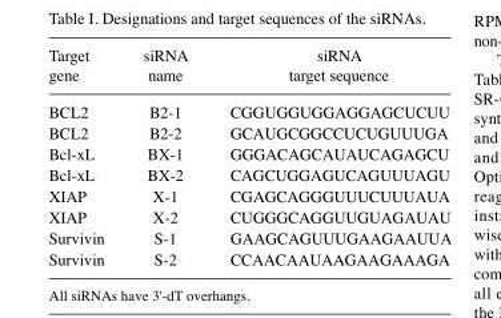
<table><thead><tr><td>Target gene</td><td>siRNA name</td><td>siRNA target sequence</td></tr></thead><tbody><tr><td>BCL2</td><td>B2-1</td><td>CGGUGGUGGAGGAGCUCUU</td></tr><tr><td>BCL2</td><td>B2-2</td><td>GCAUGCGGCCUCUGUUUGA</td></tr><tr><td>Bcl-xL</td><td>BX-1</td><td>GGGACAGCAUAUCAGAGCU</td></tr><tr><td>Bcl-xL</td><td>BX-2</td><td>CAGCUGGAGUCAGUUUAGU</td></tr><tr><td>XIAP</td><td>X-1</td><td>CGAGCAGGGUUUCUUUAUA</td></tr><tr><td>XIAP</td><td>X-2</td><td>CUGGGCAGGUUGUAGAUAU</td></tr><tr><td>Survivin</td><td>S-1</td><td>GAAGCAGUUUGAAGAAUUA</td></tr><tr><td>Survivin</td><td>S-2</td><td>CCAACAAUAAGAAGAAAGA</td></tr></tbody></table>